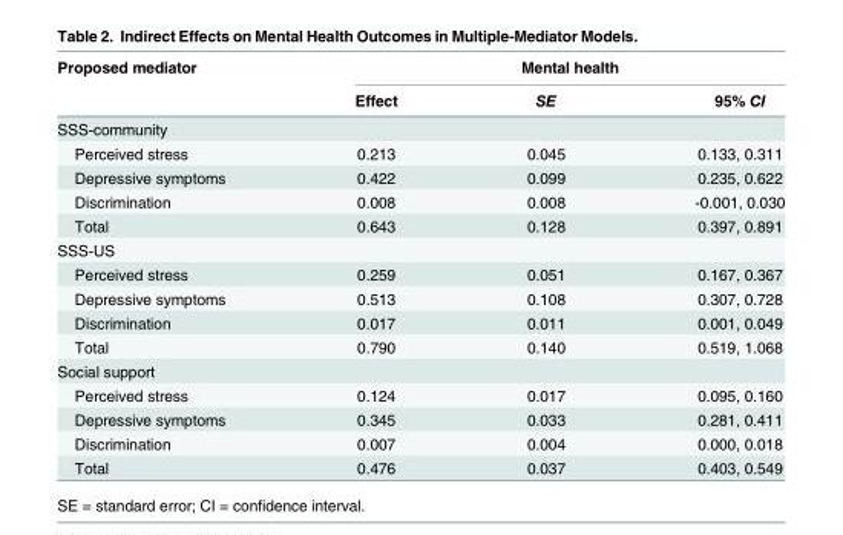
<table><thead><tr><td rowspan="2">Proposed mediator</td><td colspan="3">Mental health</td></tr><tr><td>Effect</td><td>SE</td><td>95% CI</td></tr></thead><tbody><tr><td colspan="4">SSS-community</td></tr><tr><td>Perceived stress</td><td>0.213</td><td>0.045</td><td>0.133, 0.311</td></tr><tr><td>Depressive symptoms</td><td>0.422</td><td>0.099</td><td>0.235, 0.622</td></tr><tr><td>Discrimination</td><td>0.008</td><td>0.008</td><td>-0.001, 0.030</td></tr><tr><td>Total</td><td>0.643</td><td>0.128</td><td>0.397, 0.891</td></tr><tr><td colspan="4">SSS-US</td></tr><tr><td>Perceived stress</td><td>0.259</td><td>0.051</td><td>0.167, 0.367</td></tr><tr><td>Depressive symptoms</td><td>0.513</td><td>0.108</td><td>0.307, 0.728</td></tr><tr><td>Discrimination</td><td>0.017</td><td>0.011</td><td>0.001, 0.049</td></tr><tr><td>Total</td><td>0.790</td><td>0.140</td><td>0.519, 1.068</td></tr><tr><td colspan="4">Social support</td></tr><tr><td>Perceived stress</td><td>0.124</td><td>0.017</td><td>0.095, 0.160</td></tr><tr><td>Depressive symptoms</td><td>0.345</td><td>0.033</td><td>0.281, 0.411</td></tr><tr><td>Discrimination</td><td>0.007</td><td>0.004</td><td>0.000, 0.018</td></tr><tr><td>Total</td><td>0.476</td><td>0.037</td><td>0.403, 0.549</td></tr></tbody></table>